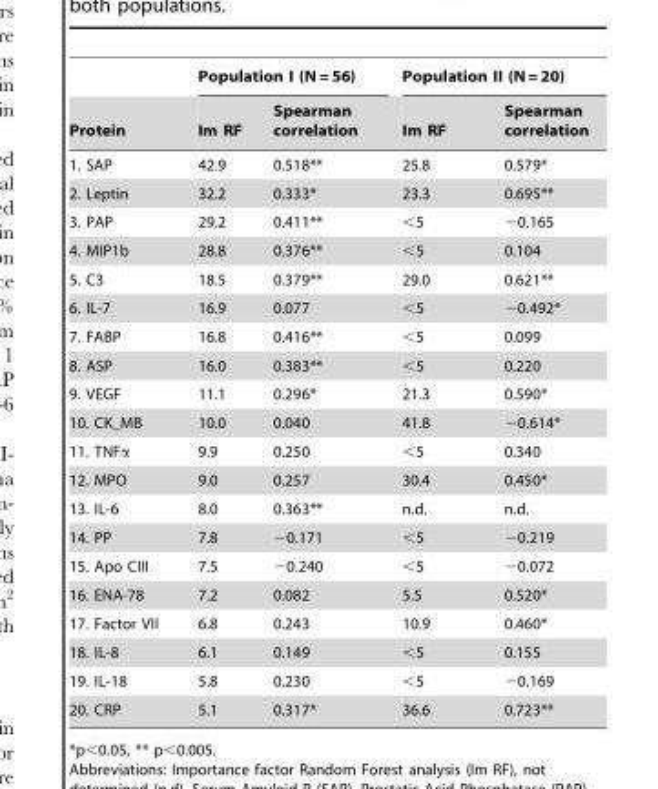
<table><thead><tr><td rowspan="2">Protein</td><td colspan="2">Population I (N = 56)</td><td colspan="2">Population II (N = 20)</td></tr><tr><td>Im RF</td><td>Spearman correlation</td><td>Im RF</td><td>Spearman correlation</td></tr></thead><tbody><tr><td>1. SAP</td><td>42.9</td><td>0.518**</td><td>25.8</td><td>0.579*</td></tr><tr><td>2. Leptin</td><td>32.2</td><td>0.333*</td><td>23.3</td><td>0.695**</td></tr><tr><td>3. PAP</td><td>29.2</td><td>0.411**</td><td>&lt;5</td><td>−0.165</td></tr><tr><td>4. MIP1b</td><td>28.8</td><td>0.376**</td><td>&lt;5</td><td>0.104</td></tr><tr><td>5. C3</td><td>18.5</td><td>0.379**</td><td>29.0</td><td>0.621**</td></tr><tr><td>6. IL-7</td><td>16.9</td><td>0.077</td><td>&lt;5</td><td>−0.492*</td></tr><tr><td>7. FABP</td><td>16.8</td><td>0.416**</td><td>&lt;5</td><td>0.099</td></tr><tr><td>8. ASP</td><td>16.0</td><td>0.383**</td><td>&lt;5</td><td>0.220</td></tr><tr><td>9. VEGF</td><td>11.1</td><td>0.296*</td><td>21.3</td><td>0.590*</td></tr><tr><td>10. CK_MB</td><td>10.0</td><td>0.040</td><td>41.8</td><td>−0.614*</td></tr><tr><td>11. TNFα</td><td>9.9</td><td>0.250</td><td>&lt;5</td><td>0.340</td></tr><tr><td>12. MPO</td><td>9.0</td><td>0.257</td><td>30.4</td><td>0.450*</td></tr><tr><td>13. IL-6</td><td>8.0</td><td>0.363**</td><td>n.d.</td><td>n.d.</td></tr><tr><td>14. PP</td><td>7.8</td><td>−0.171</td><td>&lt;5</td><td>−0.219</td></tr><tr><td>15. Apo CIII</td><td>7.5</td><td>−0.240</td><td>&lt;5</td><td>−0.072</td></tr><tr><td>16. ENA-78</td><td>7.2</td><td>0.082</td><td>5.5</td><td>0.520*</td></tr><tr><td>17. Factor VII</td><td>6.8</td><td>0.243</td><td>10.9</td><td>0.460*</td></tr><tr><td>18. IL-8</td><td>6.1</td><td>0.149</td><td>&lt;5</td><td>0.155</td></tr><tr><td>19. IL-18</td><td>5.8</td><td>0.230</td><td>&lt;5</td><td>−0.169</td></tr><tr><td>20. CRP</td><td>5.1</td><td>0.317*</td><td>36.6</td><td>0.723**</td></tr></tbody></table>